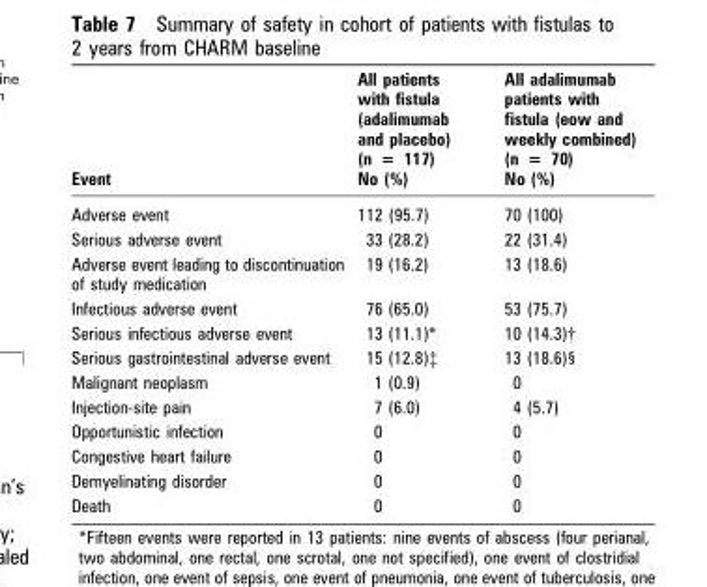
<table><thead><tr><td rowspan="2">Event</td><td rowspan="2">All patients with fistula (adalimumab and placebo) (n = 117) No (%)</td><td rowspan="2">All adalimumab patients with fistula (eow and weekly combined) (n = 70) No (%)</td></tr><tr></tr></thead><tbody><tr><td>Adverse event</td><td>112 (95.7)</td><td>70 (100)</td></tr><tr><td>Serious adverse event</td><td>33 (28.2)</td><td>22 (31.4)</td></tr><tr><td>Adverse event leading to discontinuation of study medication</td><td>19 (16.2)</td><td>13 (18.6)</td></tr><tr><td>Infectious adverse event</td><td>76 (65.0)</td><td>53 (75.7)</td></tr><tr><td>Serious infectious adverse event</td><td>13 (11.1)*</td><td>10 (14.3)†</td></tr><tr><td>Serious gastrointestinal adverse event</td><td>15 (12.8)‡</td><td>13 (18.6)§</td></tr><tr><td>Malignant neoplasm</td><td>1 (0.9)</td><td>0</td></tr><tr><td>Injection-site pain</td><td>7 (6.0)</td><td>4 (5.7)</td></tr><tr><td>Opportunistic infection</td><td>0</td><td>0</td></tr><tr><td>Congestive heart failure</td><td>0</td><td>0</td></tr><tr><td>Demyelinating disorder</td><td>0</td><td>0</td></tr><tr><td>Death</td><td>0</td><td>0</td></tr></tbody></table>